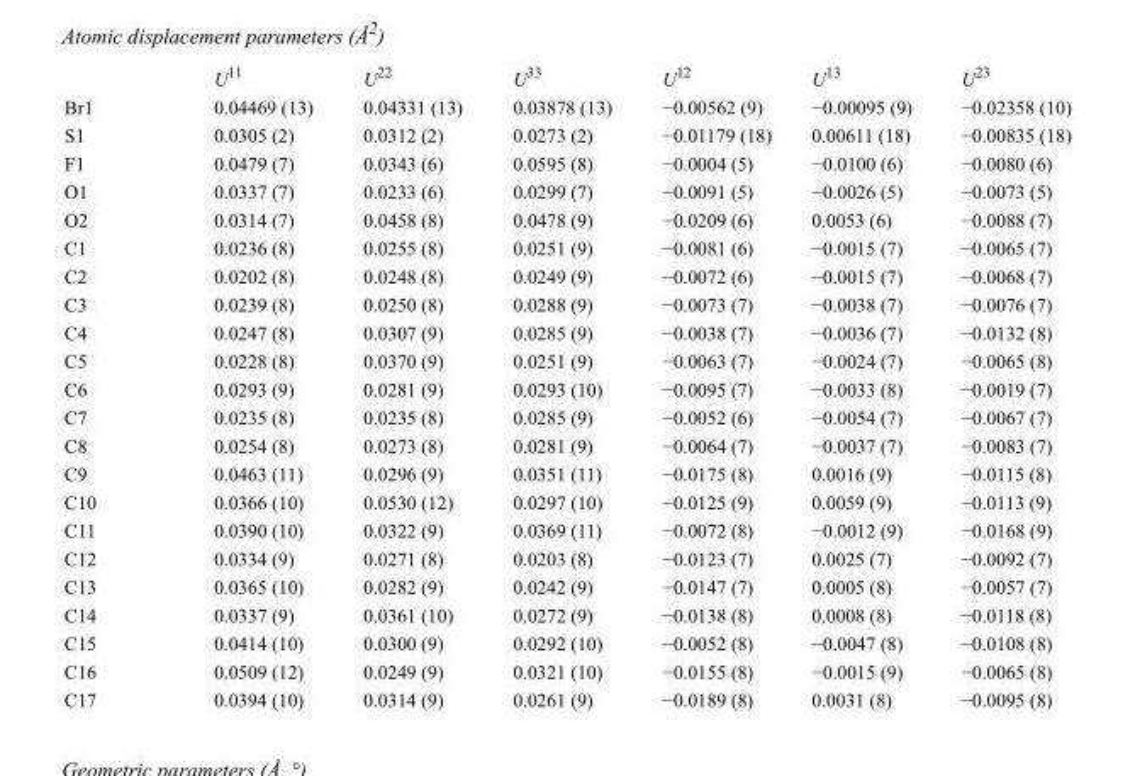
<table><thead><tr><td></td><td>U<sup>11</sup></td><td>U<sup>22</sup></td><td>U<sup>33</sup></td><td>U<sup>12</sup></td><td>U<sup>13</sup></td><td>U<sup>23</sup></td></tr></thead><tbody><tr><td>Br1</td><td>0.04469 (13)</td><td>0.04331 (13)</td><td>0.03878 (13)</td><td>−0.00562 (9)</td><td>−0.00095 (9)</td><td>−0.02358 (10)</td></tr><tr><td>S1</td><td>0.0305 (2)</td><td>0.0312 (2)</td><td>0.0273 (2)</td><td>−0.01179 (18)</td><td>0.00611 (18)</td><td>−0.00835 (18)</td></tr><tr><td>F1</td><td>0.0479 (7)</td><td>0.0343 (6)</td><td>0.0595 (8)</td><td>−0.0004 (5)</td><td>−0.0100 (6)</td><td>−0.0080 (6)</td></tr><tr><td>O1</td><td>0.0337 (7)</td><td>0.0233 (6)</td><td>0.0299 (7)</td><td>−0.0091 (5)</td><td>−0.0026 (5)</td><td>−0.0073 (5)</td></tr><tr><td>O2</td><td>0.0314 (7)</td><td>0.0458 (8)</td><td>0.0478 (9)</td><td>−0.0209 (6)</td><td>0.0053 (6)</td><td>−0.0088 (7)</td></tr><tr><td>C1</td><td>0.0236 (8)</td><td>0.0255 (8)</td><td>0.0251 (9)</td><td>−0.0081 (6)</td><td>−0.0015 (7)</td><td>−0.0065 (7)</td></tr><tr><td>C2</td><td>0.0202 (8)</td><td>0.0248 (8)</td><td>0.0249 (9)</td><td>−0.0072 (6)</td><td>−0.0015 (7)</td><td>−0.0068 (7)</td></tr><tr><td>C3</td><td>0.0239 (8)</td><td>0.0250 (8)</td><td>0.0288 (9)</td><td>−0.0073 (7)</td><td>−0.0038 (7)</td><td>−0.0076 (7)</td></tr><tr><td>C4</td><td>0.0247 (8)</td><td>0.0307 (9)</td><td>0.0285 (9)</td><td>−0.0038 (7)</td><td>−0.0036 (7)</td><td>−0.0132 (8)</td></tr><tr><td>C5</td><td>0.0228 (8)</td><td>0.0370 (9)</td><td>0.0251 (9)</td><td>−0.0063 (7)</td><td>−0.0024 (7)</td><td>−0.0065 (8)</td></tr><tr><td>C6</td><td>0.0293 (9)</td><td>0.0281 (9)</td><td>0.0293 (10)</td><td>−0.0095 (7)</td><td>−0.0033 (8)</td><td>−0.0019 (7)</td></tr><tr><td>C7</td><td>0.0235 (8)</td><td>0.0235 (8)</td><td>0.0285 (9)</td><td>−0.0052 (6)</td><td>−0.0054 (7)</td><td>−0.0067 (7)</td></tr><tr><td>C8</td><td>0.0254 (8)</td><td>0.0273 (8)</td><td>0.0281 (9)</td><td>−0.0064 (7)</td><td>−0.0037 (7)</td><td>−0.0083 (7)</td></tr><tr><td>C9</td><td>0.0463 (11)</td><td>0.0296 (9)</td><td>0.0351 (11)</td><td>−0.0175 (8)</td><td>0.0016 (9)</td><td>−0.0115 (8)</td></tr><tr><td>C10</td><td>0.0366 (10)</td><td>0.0530 (12)</td><td>0.0297 (10)</td><td>−0.0125 (9)</td><td>0.0059 (9)</td><td>−0.0113 (9)</td></tr><tr><td>C11</td><td>0.0390 (10)</td><td>0.0322 (9)</td><td>0.0369 (11)</td><td>−0.0072 (8)</td><td>−0.0012 (9)</td><td>−0.0168 (9)</td></tr><tr><td>C12</td><td>0.0334 (9)</td><td>0.0271 (8)</td><td>0.0203 (8)</td><td>−0.0123 (7)</td><td>0.0025 (7)</td><td>−0.0092 (7)</td></tr><tr><td>C13</td><td>0.0365 (10)</td><td>0.0282 (9)</td><td>0.0242 (9)</td><td>−0.0147 (7)</td><td>0.0005 (8)</td><td>−0.0057 (7)</td></tr><tr><td>C14</td><td>0.0337 (9)</td><td>0.0361 (10)</td><td>0.0272 (9)</td><td>−0.0138 (8)</td><td>0.0008 (8)</td><td>−0.0118 (8)</td></tr><tr><td>C15</td><td>0.0414 (10)</td><td>0.0300 (9)</td><td>0.0292 (10)</td><td>−0.0052 (8)</td><td>−0.0047 (8)</td><td>−0.0108 (8)</td></tr><tr><td>C16</td><td>0.0509 (12)</td><td>0.0249 (9)</td><td>0.0321 (10)</td><td>−0.0155 (8)</td><td>−0.0015 (9)</td><td>−0.0065 (8)</td></tr><tr><td>C17</td><td>0.0394 (10)</td><td>0.0314 (9)</td><td>0.0261 (9)</td><td>−0.0189 (8)</td><td>0.0031 (8)</td><td>−0.0095 (8)</td></tr></tbody></table>